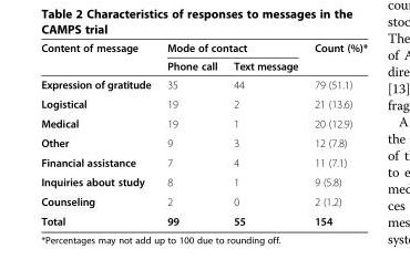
<table><thead><tr><td rowspan="2">Content of message</td><td colspan="2">Mode of contact</td><td rowspan="2">Count (%)*</td></tr><tr><td>Phone call</td><td>Text message</td></tr></thead><tbody><tr><td>Expression of gratitude</td><td>35</td><td>44</td><td>79 (51.1)</td></tr><tr><td>Logistical</td><td>19</td><td>2</td><td>21 (13.6)</td></tr><tr><td>Medical</td><td>19</td><td>1</td><td>20 (12.9)</td></tr><tr><td>Other</td><td>9</td><td>3</td><td>12 (7.8)</td></tr><tr><td>Financial assistance</td><td>7</td><td>4</td><td>11 (7.1)</td></tr><tr><td>Inquiries about study</td><td>8</td><td>1</td><td>9 (5.8)</td></tr><tr><td>Counseling</td><td>2</td><td>0</td><td>2 (1.2)</td></tr><tr><td>Total</td><td>99</td><td>55</td><td>154</td></tr></tbody></table>